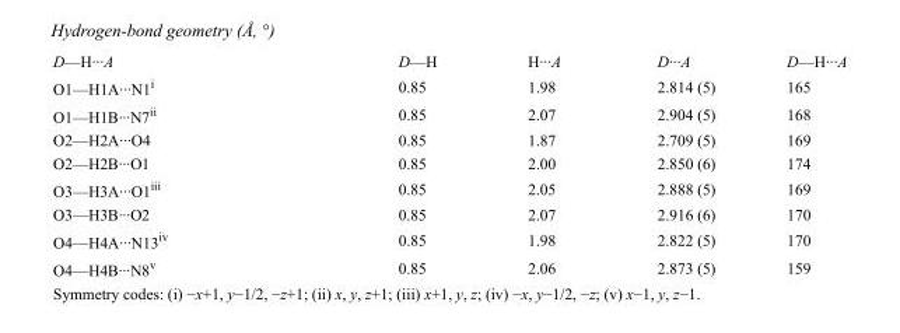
<table><tbody><tr><td>D—H···A</td><td>D—H</td><td>H···A</td><td>D···A</td><td>D—H···A</td></tr><tr><td>O1—H1A···N1<sup>i</sup></td><td>0.85</td><td>1.98</td><td>2.814 (5)</td><td>165</td></tr><tr><td>O1—H1B···N7<sup>ii</sup></td><td>0.85</td><td>2.07</td><td>2.904 (5)</td><td>168</td></tr><tr><td>O2—H2A···O4</td><td>0.85</td><td>1.87</td><td>2.709 (5)</td><td>169</td></tr><tr><td>O2—H2B···O1</td><td>0.85</td><td>2.00</td><td>2.850 (6)</td><td>174</td></tr><tr><td>O3—H3A···O1<sup>iii</sup></td><td>0.85</td><td>2.05</td><td>2.888 (5)</td><td>169</td></tr><tr><td>O3—H3B···O2</td><td>0.85</td><td>2.07</td><td>2.916 (6)</td><td>170</td></tr><tr><td>O4—H4A···N13<sup>iv</sup></td><td>0.85</td><td>1.98</td><td>2.822 (5)</td><td>170</td></tr><tr><td>O4—H4B···N8<sup>v</sup></td><td>0.85</td><td>2.06</td><td>2.873 (5)</td><td>159</td></tr></tbody></table>